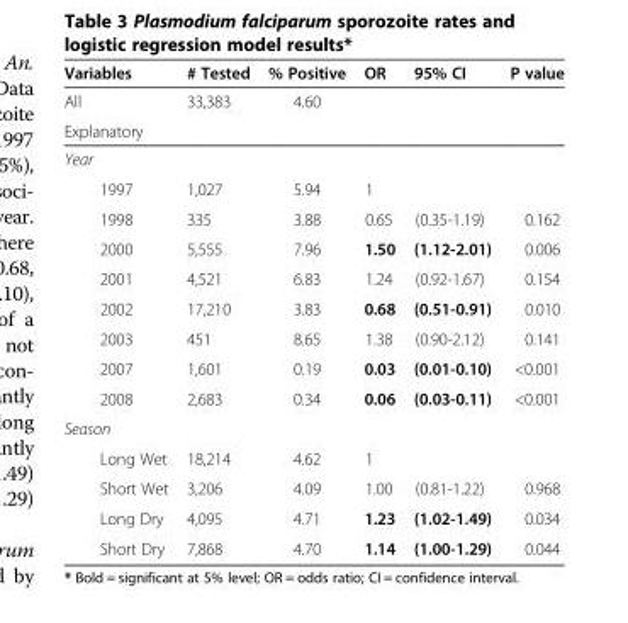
<table><thead><tr><td colspan="2">Variables</td><td rowspan="2"># Tested 33,383</td><td rowspan="2">% Positive 4.60</td><td rowspan="2">OR</td><td rowspan="2">95% CI</td><td rowspan="2">P value</td></tr><tr><td>All</td><td></td></tr></thead><tbody><tr><td colspan="7">Explanatory</td></tr><tr><td colspan="7">Year</td></tr><tr><td></td><td>1997</td><td>1,027</td><td>5.94</td><td>1</td><td></td><td></td></tr><tr><td></td><td>1998</td><td>335</td><td>3.88</td><td>0.65</td><td>(0.35-1.19)</td><td>0.162</td></tr><tr><td></td><td>2000</td><td>5,555</td><td>7.96</td><td>1.50</td><td>(1.12-2.01)</td><td>0.006</td></tr><tr><td></td><td>2001</td><td>4,521</td><td>6.83</td><td>1.24</td><td>(0.92-1.67)</td><td>0.154</td></tr><tr><td></td><td>2002</td><td>17,210</td><td>3.83</td><td>0.68</td><td>(0.51-0.91)</td><td>0.010</td></tr><tr><td></td><td>2003</td><td>451</td><td>8.65</td><td>1.38</td><td>(0.90-2.12)</td><td>0.141</td></tr><tr><td></td><td>2007</td><td>1,601</td><td>0.19</td><td>0.03</td><td>(0.01-0.10)</td><td>&lt;0.001</td></tr><tr><td></td><td>2008</td><td>2,683</td><td>0.34</td><td>0.06</td><td>(0.03-0.11)</td><td>&lt;0.001</td></tr><tr><td colspan="7">Season</td></tr><tr><td></td><td>Long Wet</td><td>18,214</td><td>4.62</td><td>1</td><td></td><td></td></tr><tr><td></td><td>Short Wet</td><td>3,206</td><td>4.09</td><td>1.00</td><td>(0.81-1.22)</td><td>0.968</td></tr><tr><td></td><td>Long Dry</td><td>4,095</td><td>4.71</td><td>1.23</td><td>(1.02-1.49)</td><td>0.034</td></tr><tr><td></td><td>Short Dry</td><td>7,868</td><td>4.70</td><td>1.14</td><td>(1.00-1.29)</td><td>0.044</td></tr></tbody></table>